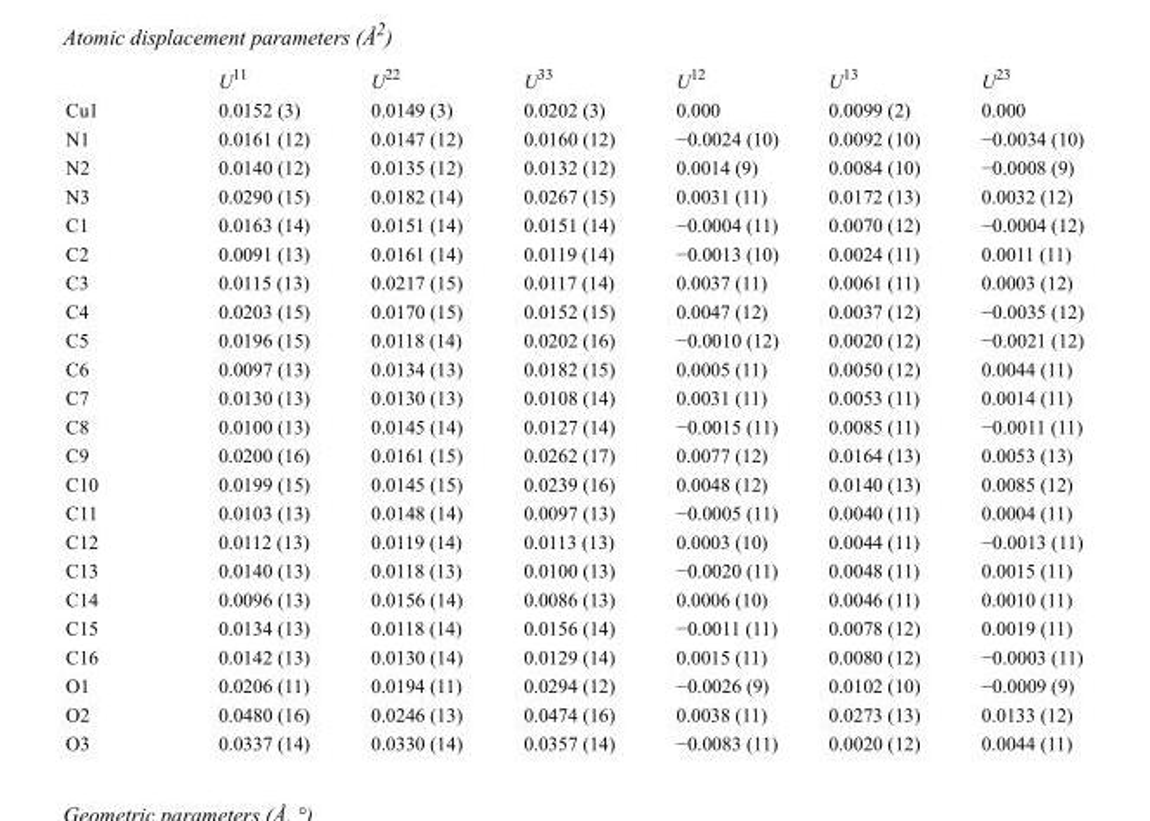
<table><thead><tr><td></td><td>U<sup>11</sup></td><td>U<sup>22</sup></td><td>U<sup>33</sup></td><td>U<sup>12</sup></td><td>U<sup>13</sup></td><td>U<sup>23</sup></td></tr></thead><tbody><tr><td>Cu1</td><td>0.0152 (3)</td><td>0.0149 (3)</td><td>0.0202 (3)</td><td>0.000</td><td>0.0099 (2)</td><td>0.000</td></tr><tr><td>N1</td><td>0.0161 (12)</td><td>0.0147 (12)</td><td>0.0160 (12)</td><td>−0.0024 (10)</td><td>0.0092 (10)</td><td>−0.0034 (10)</td></tr><tr><td>N2</td><td>0.0140 (12)</td><td>0.0135 (12)</td><td>0.0132 (12)</td><td>0.0014 (9)</td><td>0.0084 (10)</td><td>−0.0008 (9)</td></tr><tr><td>N3</td><td>0.0290 (15)</td><td>0.0182 (14)</td><td>0.0267 (15)</td><td>0.0031 (11)</td><td>0.0172 (13)</td><td>0.0032 (12)</td></tr><tr><td>C1</td><td>0.0163 (14)</td><td>0.0151 (14)</td><td>0.0151 (14)</td><td>−0.0004 (11)</td><td>0.0070 (12)</td><td>−0.0004 (12)</td></tr><tr><td>C2</td><td>0.0091 (13)</td><td>0.0161 (14)</td><td>0.0119 (14)</td><td>−0.0013 (10)</td><td>0.0024 (11)</td><td>0.0011 (11)</td></tr><tr><td>C3</td><td>0.0115 (13)</td><td>0.0217 (15)</td><td>0.0117 (14)</td><td>0.0037 (11)</td><td>0.0061 (11)</td><td>0.0003 (12)</td></tr><tr><td>C4</td><td>0.0203 (15)</td><td>0.0170 (15)</td><td>0.0152 (15)</td><td>0.0047 (12)</td><td>0.0037 (12)</td><td>−0.0035 (12)</td></tr><tr><td>C5</td><td>0.0196 (15)</td><td>0.0118 (14)</td><td>0.0202 (16)</td><td>−0.0010 (12)</td><td>0.0020 (12)</td><td>−0.0021 (12)</td></tr><tr><td>C6</td><td>0.0097 (13)</td><td>0.0134 (13)</td><td>0.0182 (15)</td><td>0.0005 (11)</td><td>0.0050 (12)</td><td>0.0044 (11)</td></tr><tr><td>C7</td><td>0.0130 (13)</td><td>0.0130 (13)</td><td>0.0108 (14)</td><td>0.0031 (11)</td><td>0.0053 (11)</td><td>0.0014 (11)</td></tr><tr><td>C8</td><td>0.0100 (13)</td><td>0.0145 (14)</td><td>0.0127 (14)</td><td>−0.0015 (11)</td><td>0.0085 (11)</td><td>−0.0011 (11)</td></tr><tr><td>C9</td><td>0.0200 (16)</td><td>0.0161 (15)</td><td>0.0262 (17)</td><td>0.0077 (12)</td><td>0.0164 (13)</td><td>0.0053 (13)</td></tr><tr><td>C10</td><td>0.0199 (15)</td><td>0.0145 (15)</td><td>0.0239 (16)</td><td>0.0048 (12)</td><td>0.0140 (13)</td><td>0.0085 (12)</td></tr><tr><td>C11</td><td>0.0103 (13)</td><td>0.0148 (14)</td><td>0.0097 (13)</td><td>−0.0005 (11)</td><td>0.0040 (11)</td><td>0.0004 (11)</td></tr><tr><td>C12</td><td>0.0112 (13)</td><td>0.0119 (14)</td><td>0.0113 (13)</td><td>0.0003 (10)</td><td>0.0044 (11)</td><td>−0.0013 (11)</td></tr><tr><td>C13</td><td>0.0140 (13)</td><td>0.0118 (13)</td><td>0.0100 (13)</td><td>−0.0020 (11)</td><td>0.0048 (11)</td><td>0.0015 (11)</td></tr><tr><td>C14</td><td>0.0096 (13)</td><td>0.0156 (14)</td><td>0.0086 (13)</td><td>0.0006 (10)</td><td>0.0046 (11)</td><td>0.0010 (11)</td></tr><tr><td>C15</td><td>0.0134 (13)</td><td>0.0118 (14)</td><td>0.0156 (14)</td><td>−0.0011 (11)</td><td>0.0078 (12)</td><td>0.0019 (11)</td></tr><tr><td>C16</td><td>0.0142 (13)</td><td>0.0130 (14)</td><td>0.0129 (14)</td><td>0.0015 (11)</td><td>0.0080 (12)</td><td>−0.0003 (11)</td></tr><tr><td>O1</td><td>0.0206 (11)</td><td>0.0194 (11)</td><td>0.0294 (12)</td><td>−0.0026 (9)</td><td>0.0102 (10)</td><td>−0.0009 (9)</td></tr><tr><td>O2</td><td>0.0480 (16)</td><td>0.0246 (13)</td><td>0.0474 (16)</td><td>0.0038 (11)</td><td>0.0273 (13)</td><td>0.0133 (12)</td></tr><tr><td>O3</td><td>0.0337 (14)</td><td>0.0330 (14)</td><td>0.0357 (14)</td><td>−0.0083 (11)</td><td>0.0020 (12)</td><td>0.0044 (11)</td></tr></tbody></table>